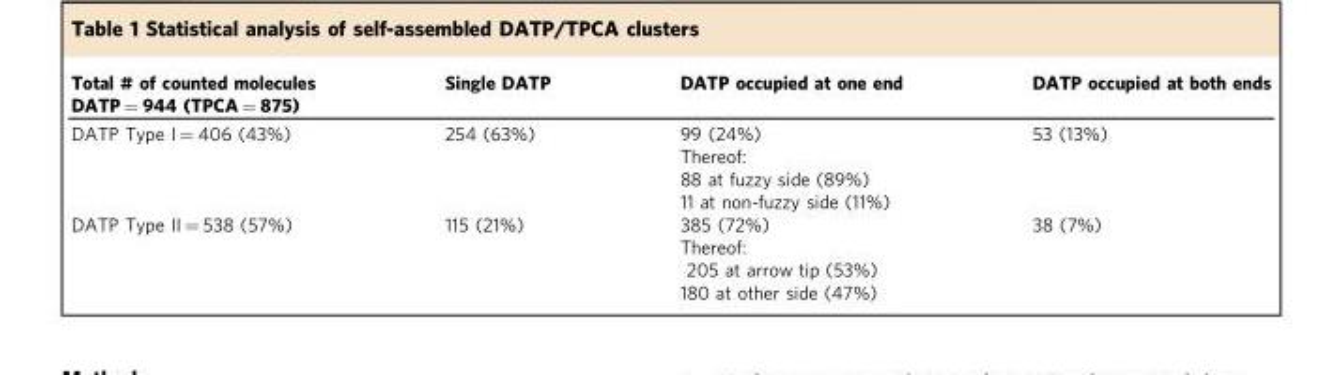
<table><thead><tr><td>Total # of counted molecules DATP = 944 (TPCA = 875)</td><td>Single DATP</td><td>DATP occupied at one end</td><td>DATP occupied at both ends</td></tr></thead><tbody><tr><td>DATP Type I = 406 (43%)</td><td>254 (63%)</td><td>99 (24%) Thereof: 88 at fuzzy side (89%) 11 at non-fuzzy side (11%)</td><td>53 (13%)</td></tr><tr><td>DATP Type II = 538 (57%)</td><td>115 (21%)</td><td>385 (72%) Thereof: 205 at arrow tip (53%) 180 at other side (47%)</td><td>38 (7%)</td></tr></tbody></table>